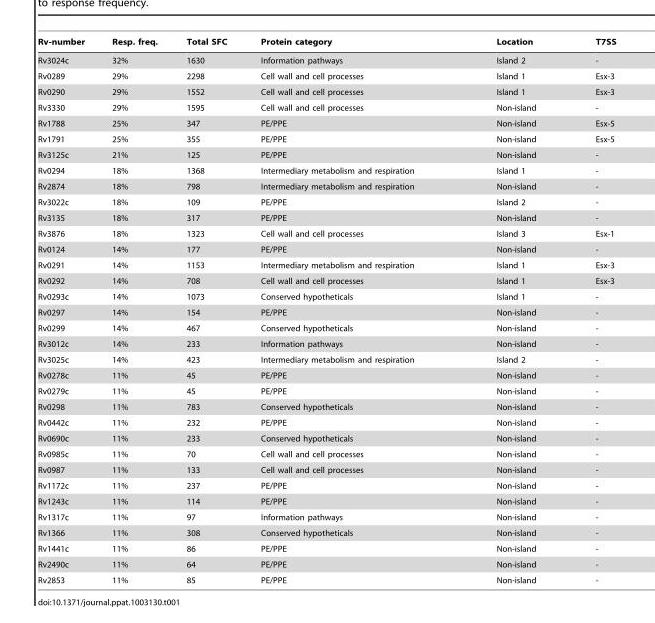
<table><thead><tr><td>Rv-number</td><td>Resp. freq.</td><td>Total SFC</td><td>Protein category</td><td>Location</td><td>T7SS</td></tr></thead><tbody><tr><td>Rv3024c</td><td>32%</td><td>1630</td><td>Information pathways</td><td>Island 2</td><td>-</td></tr><tr><td>Rv0289</td><td>29%</td><td>2298</td><td>Cell wall and cell processes</td><td>Island 1</td><td>Esx-3</td></tr><tr><td>Rv0290</td><td>29%</td><td>1552</td><td>Cell wall and cell processes</td><td>Island 1</td><td>Esx-3</td></tr><tr><td>Rv3330</td><td>29%</td><td>1595</td><td>Cell wall and cell processes</td><td>Non-island</td><td>-</td></tr><tr><td>Rv1788</td><td>25%</td><td>347</td><td>PE/PPE</td><td>Non-island</td><td>Esx-5</td></tr><tr><td>Rv1791</td><td>25%</td><td>355</td><td>PE/PPE</td><td>Non-island</td><td>Esx-5</td></tr><tr><td>Rv3125c</td><td>21%</td><td>125</td><td>PE/PPE</td><td>Non-island</td><td>-</td></tr><tr><td>Rv0294</td><td>18%</td><td>1368</td><td>Intermediary metabolism and respiration</td><td>Island 1</td><td>-</td></tr><tr><td>Rv2874</td><td>18%</td><td>798</td><td>Intermediary metabolism and respiration</td><td>Non-island</td><td>-</td></tr><tr><td>Rv3022c</td><td>18%</td><td>109</td><td>PE/PPE</td><td>Island 2</td><td>-</td></tr><tr><td>Rv3135</td><td>18%</td><td>317</td><td>PE/PPE</td><td>Non-island</td><td>-</td></tr><tr><td>Rv3876</td><td>18%</td><td>1323</td><td>Cell wall and cell processes</td><td>Island 3</td><td>Esx-1</td></tr><tr><td>Rv0124</td><td>14%</td><td>177</td><td>PE/PPE</td><td>Non-island</td><td>-</td></tr><tr><td>Rv0291</td><td>14%</td><td>1153</td><td>Intermediary metabolism and respiration</td><td>Island 1</td><td>Esx-3</td></tr><tr><td>Rv0292</td><td>14%</td><td>708</td><td>Cell wall and cell processes</td><td>Island 1</td><td>Esx-3</td></tr><tr><td>Rv0293c</td><td>14%</td><td>1073</td><td>Conserved hypotheticals</td><td>Island 1</td><td>-</td></tr><tr><td>Rv0297</td><td>14%</td><td>154</td><td>PE/PPE</td><td>Non-island</td><td>-</td></tr><tr><td>Rv0299</td><td>14%</td><td>467</td><td>Conserved hypotheticals</td><td>Non-island</td><td>-</td></tr><tr><td>Rv3012c</td><td>14%</td><td>233</td><td>Information pathways</td><td>Non-island</td><td>-</td></tr><tr><td>Rv3025c</td><td>14%</td><td>423</td><td>Intermediary metabolism and respiration</td><td>Island 2</td><td>-</td></tr><tr><td>Rv0278c</td><td>11%</td><td>45</td><td>PE/PPE</td><td>Non-island</td><td>-</td></tr><tr><td>Rv0279c</td><td>11%</td><td>45</td><td>PE/PPE</td><td>Non-island</td><td>-</td></tr><tr><td>Rv0298</td><td>11%</td><td>783</td><td>Conserved hypotheticals</td><td>Non-island</td><td>-</td></tr><tr><td>Rv0442c</td><td>11%</td><td>232</td><td>PE/PPE</td><td>Non-island</td><td>-</td></tr><tr><td>Rv0690c</td><td>11%</td><td>233</td><td>Conserved hypotheticals</td><td>Non-island</td><td>-</td></tr><tr><td>Rv0985c</td><td>11%</td><td>70</td><td>Cell wall and cell processes</td><td>Non-island</td><td>-</td></tr><tr><td>Rv0987</td><td>11%</td><td>133</td><td>Cell wall and cell processes</td><td>Non-island</td><td>-</td></tr><tr><td>Rv1172c</td><td>11%</td><td>237</td><td>PE/PPE</td><td>Non-island</td><td>-</td></tr><tr><td>Rv1243c</td><td>11%</td><td>114</td><td>PE/PPE</td><td>Non-island</td><td>-</td></tr><tr><td>Rv1317c</td><td>11%</td><td>97</td><td>Information pathways</td><td>Non-island</td><td>-</td></tr><tr><td>Rv1366</td><td>11%</td><td>308</td><td>Conserved hypotheticals</td><td>Non-island</td><td>-</td></tr><tr><td>Rv1441c</td><td>11%</td><td>86</td><td>PE/PPE</td><td>Non-island</td><td>-</td></tr><tr><td>Rv2490c</td><td>11%</td><td>64</td><td>PE/PPE</td><td>Non-island</td><td>-</td></tr><tr><td>Rv2853</td><td>11%</td><td>85</td><td>PE/PPE</td><td>Non-island</td><td>-</td></tr></tbody></table>